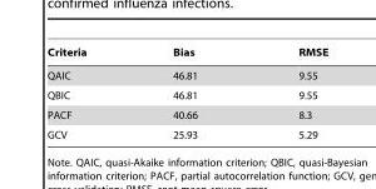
<table><thead><tr><td>Criteria</td><td>Bias</td><td>RMSE</td></tr></thead><tbody><tr><td>QAIC</td><td>46.81</td><td>9.55</td></tr><tr><td>QBIC</td><td>46.81</td><td>9.55</td></tr><tr><td>PACF</td><td>40.66</td><td>8.3</td></tr><tr><td>GCV</td><td>25.93</td><td>5.29</td></tr></tbody></table>